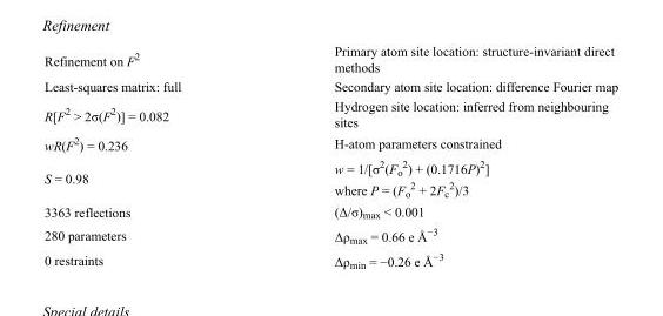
<table><tbody><tr><td>Refinement on F<sup>2</sup></td><td>Primary atom site location: structure-invariant direct methods</td></tr><tr><td>Least-squares matrix: full</td><td>Secondary atom site location: difference Fourier map</td></tr><tr><td>R[F<sup>2</sup> &gt; 2σ(F<sup>2</sup>)] = 0.082</td><td>Hydrogen site location: inferred from neighbouring sites</td></tr><tr><td>wR(F<sup>2</sup>) = 0.236</td><td>H-atom parameters constrained</td></tr><tr><td>S = 0.98</td><td>w = 1/[σ<sup>2</sup>(F<sub>o</sub> <sup>2</sup>) + (0.1716P)<sup>2</sup>] where P = (F<sub>o</sub> <sup>2</sup> + 2F<sub>c</sub> <sup>2</sup>)/3</td></tr><tr><td>3363 reflections</td><td>(Δ/σ)<sub>max</sub> &lt; 0.001</td></tr><tr><td>280 parameters</td><td>Δρ<sub>max</sub> = 0.66 e Å<sup>−3</sup></td></tr><tr><td>0 restraints</td><td>Δρ<sub>min</sub> = −0.26 e Å<sup>−3</sup></td></tr></tbody></table>